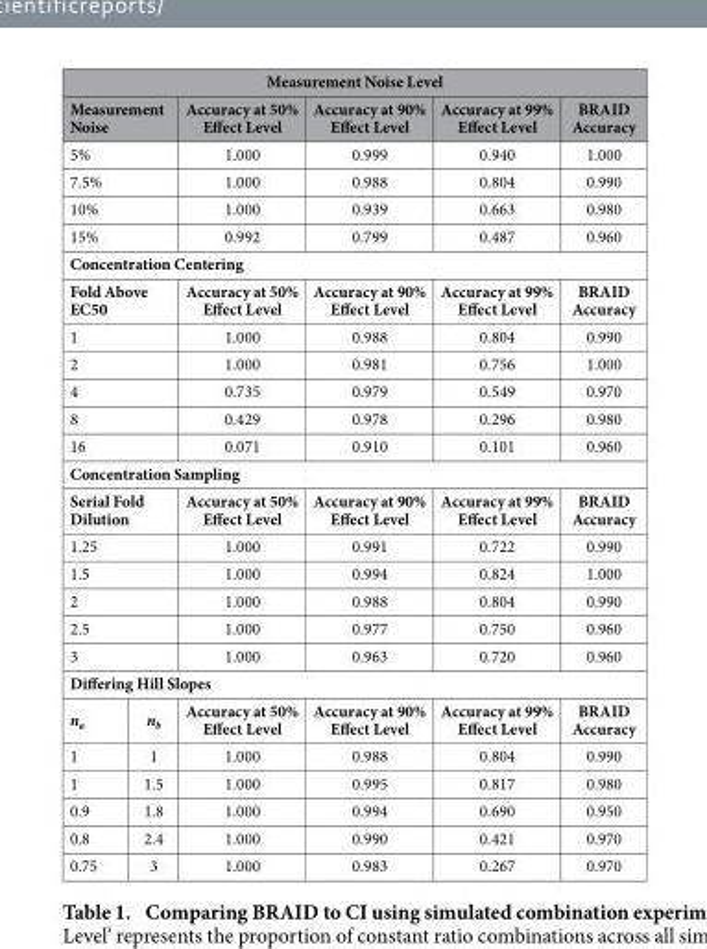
<table><thead><tr><td colspan="6">Measurement Noise Level</td></tr><tr><td colspan="2">Measurement Noise</td><td>Accuracy at 50% Effect Level</td><td>Accuracy at 90% Effect Level</td><td>Accuracy at 99% Effect Level</td><td>BRAID Accuracy</td></tr></thead><tbody><tr><td colspan="2">5%</td><td>1.000</td><td>0.999</td><td>0.940</td><td>1.000</td></tr><tr><td colspan="2">7.5%</td><td>1.000</td><td>0.988</td><td>0.804</td><td>0.990</td></tr><tr><td colspan="2">10%</td><td>1.000</td><td>0.939</td><td>0.663</td><td>0.980</td></tr><tr><td colspan="2">15%</td><td>0.992</td><td>0.799</td><td>0.487</td><td>0.960</td></tr><tr><td colspan="6">Concentration Centering</td></tr><tr><td colspan="2">Fold Above EC50</td><td>Accuracy at 50% Effect Level</td><td>Accuracy at 90% Effect Level</td><td>Accuracy at 99% Effect Level</td><td>BRAID Accuracy</td></tr><tr><td colspan="2">1</td><td>1.000</td><td>0.988</td><td>0.804</td><td>0.990</td></tr><tr><td colspan="2">2</td><td>1.000</td><td>0.981</td><td>0.756</td><td>1.000</td></tr><tr><td colspan="2">4</td><td>0.735</td><td>0.979</td><td>0.549</td><td>0.970</td></tr><tr><td colspan="2">8</td><td>0.429</td><td>0.978</td><td>0.296</td><td>0.980</td></tr><tr><td colspan="2">16</td><td>0.071</td><td>0.910</td><td>0.101</td><td>0.960</td></tr><tr><td colspan="6">Concentration Sampling</td></tr><tr><td colspan="2">Serial Fold Dilution</td><td>Accuracy at 50% Effect Level</td><td>Accuracy at 90% Effect Level</td><td>Accuracy at 99% Effect Level</td><td>BRAID Accuracy</td></tr><tr><td colspan="2">1.25</td><td>1.000</td><td>0.991</td><td>0.722</td><td>0.990</td></tr><tr><td colspan="2">1.5</td><td>1.000</td><td>0.994</td><td>0.824</td><td>1.000</td></tr><tr><td colspan="2">2</td><td>1.000</td><td>0.988</td><td>0.804</td><td>0.990</td></tr><tr><td colspan="2">2.5</td><td>1.000</td><td>0.977</td><td>0.750</td><td>0.960</td></tr><tr><td colspan="2">3</td><td>1.000</td><td>0.963</td><td>0.720</td><td>0.960</td></tr><tr><td colspan="6">Differing Hill Slopes</td></tr><tr><td>na</td><td>nb</td><td>Accuracy at 50% Effect Level</td><td>Accuracy at 90% Effect Level</td><td>Accuracy at 99% Effect Level</td><td>BRAID Accuracy</td></tr><tr><td>1</td><td>1</td><td>1.000</td><td>0.988</td><td>0.804</td><td>0.990</td></tr><tr><td>1</td><td>1.5</td><td>1.000</td><td>0.995</td><td>0.817</td><td>0.980</td></tr><tr><td>0.9</td><td>1.8</td><td>1.000</td><td>0.994</td><td>0.690</td><td>0.950</td></tr><tr><td>0.8</td><td>2.4</td><td>1.000</td><td>0.990</td><td>0.421</td><td>0.970</td></tr><tr><td>0.75</td><td>3</td><td>1.000</td><td>0.983</td><td>0.267</td><td>0.970</td></tr></tbody></table>